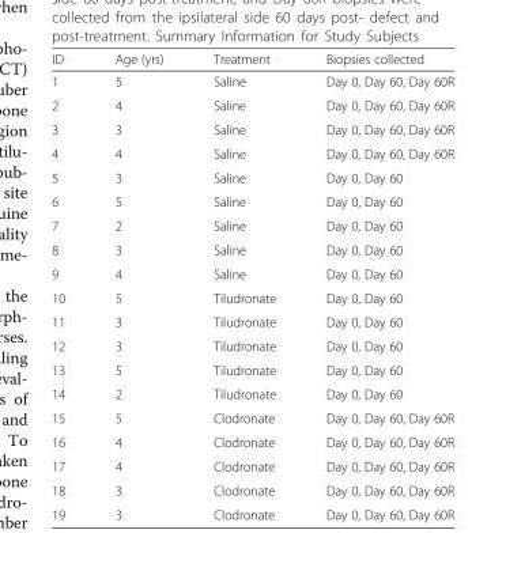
<table><thead><tr><td>ID</td><td>Age (yrs)</td><td>Treatment</td><td>Biopsies collected</td></tr></thead><tbody><tr><td>1</td><td>5</td><td>Saline</td><td>Day 0, Day 60, Day 60R</td></tr><tr><td>2</td><td>4</td><td>Saline</td><td>Day 0, Day 60, Day 60R</td></tr><tr><td>3</td><td>3</td><td>Saline</td><td>Day 0, Day 60, Day 60R</td></tr><tr><td>4</td><td>4</td><td>Saline</td><td>Day 0, Day 60, Day 60R</td></tr><tr><td>5</td><td>3</td><td>Saline</td><td>Day 0, Day 60</td></tr><tr><td>6</td><td>5</td><td>Saline</td><td>Day 0, Day 60</td></tr><tr><td>7</td><td>2</td><td>Saline</td><td>Day 0, Day 60</td></tr><tr><td>8</td><td>3</td><td>Saline</td><td>Day 0, Day 60</td></tr><tr><td>9</td><td>4</td><td>Saline</td><td>Day 0, Day 60</td></tr><tr><td>10</td><td>5</td><td>Tiludronate</td><td>Day 0, Day 60</td></tr><tr><td>11</td><td>3</td><td>Tiludronate</td><td>Day 0, Day 60</td></tr><tr><td>12</td><td>3</td><td>Tiludronate</td><td>Day 0, Day 60</td></tr><tr><td>13</td><td>5</td><td>Tiludronate</td><td>Day 0, Day 60</td></tr><tr><td>14</td><td>2</td><td>Tiludronate</td><td>Day 0, Day 60</td></tr><tr><td>15</td><td>5</td><td>Clodronate</td><td>Day 0, Day 60, Day 60R</td></tr><tr><td>16</td><td>4</td><td>Clodronate</td><td>Day 0, Day 60, Day 60R</td></tr><tr><td>17</td><td>4</td><td>Clodronate</td><td>Day 0, Day 60, Day 60R</td></tr><tr><td>18</td><td>3</td><td>Clodronate</td><td>Day 0, Day 60, Day 60R</td></tr><tr><td>19</td><td>3</td><td>Clodronate</td><td>Day 0, Day 60, Day 60R</td></tr></tbody></table>